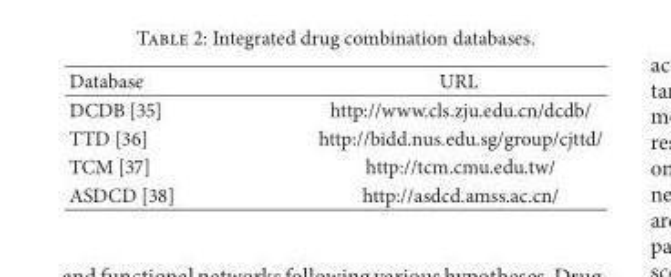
<table><thead><tr><td>Database</td><td>URL</td></tr></thead><tbody><tr><td>DCDB [35]</td><td>http://www.cls.zju.edu.cn/dcdb/</td></tr><tr><td>TTD [36]</td><td>http://bidd.nus.edu.sg/group/cjttd/</td></tr><tr><td>TCM [37]</td><td>http://tcm.cmu.edu.tw/</td></tr><tr><td>ASDCD [38]</td><td>http://asdcd.amss.ac.cn/</td></tr></tbody></table>